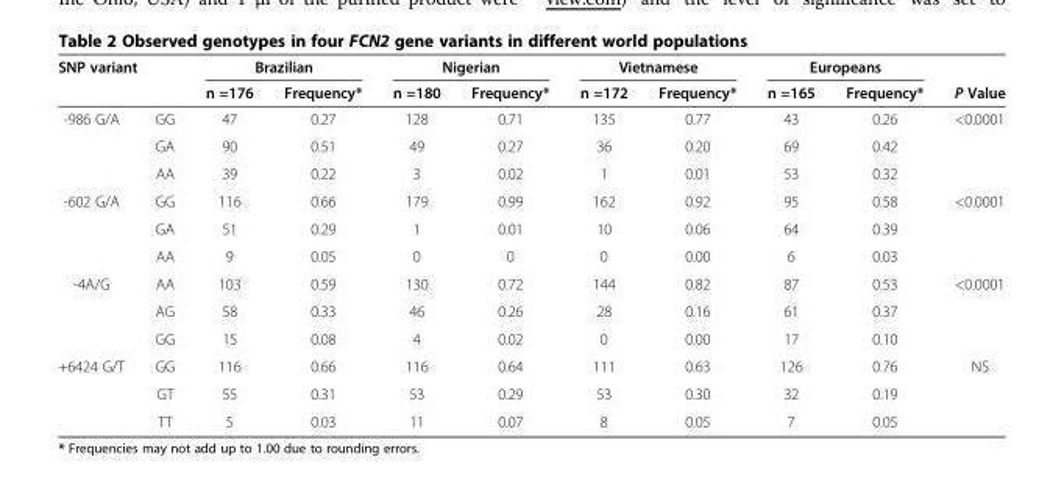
<table><thead><tr><td colspan="2">SNP variant</td><td colspan="2">Brazilian</td><td colspan="2">Nigerian</td><td colspan="2">Vietnamese</td><td colspan="2">Europeans</td><td rowspan="2">P Value</td></tr><tr><td></td><td></td><td>n =176</td><td>Frequency*</td><td>n =180</td><td>Frequency*</td><td>n =172</td><td>Frequency*</td><td>n =165</td><td>Frequency*</td></tr></thead><tbody><tr><td rowspan="3">-986 G/A</td><td>GG</td><td>47</td><td>0.27</td><td>128</td><td>0.71</td><td>135</td><td>0.77</td><td>43</td><td>0.26</td><td rowspan="3">&lt;0.0001</td></tr><tr><td>GA</td><td>90</td><td>0.51</td><td>49</td><td>0.27</td><td>36</td><td>0.20</td><td>69</td><td>0.42</td></tr><tr><td>AA</td><td>39</td><td>0.22</td><td>3</td><td>0.02</td><td>1</td><td>0.01</td><td>53</td><td>0.32</td></tr><tr><td rowspan="3">-602 G/A</td><td>GG</td><td>116</td><td>0.66</td><td>179</td><td>0.99</td><td>162</td><td>0.92</td><td>95</td><td>0.58</td><td rowspan="3">&lt;0.0001</td></tr><tr><td>GA</td><td>51</td><td>0.29</td><td>1</td><td>0.01</td><td>10</td><td>0.06</td><td>64</td><td>0.39</td></tr><tr><td>AA</td><td>9</td><td>0.05</td><td>0</td><td>0</td><td>0</td><td>0.00</td><td>6</td><td>0.03</td></tr><tr><td rowspan="3">-4A/G</td><td>AA</td><td>103</td><td>0.59</td><td>130</td><td>0.72</td><td>144</td><td>0.82</td><td>87</td><td>0.53</td><td rowspan="3">&lt;0.0001</td></tr><tr><td>AG</td><td>58</td><td>0.33</td><td>46</td><td>0.26</td><td>28</td><td>0.16</td><td>61</td><td>0.37</td></tr><tr><td>GG</td><td>15</td><td>0.08</td><td>4</td><td>0.02</td><td>0</td><td>0.00</td><td>17</td><td>0.10</td></tr><tr><td rowspan="3">+6424 G/T</td><td>GG</td><td>116</td><td>0.66</td><td>116</td><td>0.64</td><td>111</td><td>0.63</td><td>126</td><td>0.76</td><td rowspan="3">NS</td></tr><tr><td>GT</td><td>55</td><td>0.31</td><td>53</td><td>0.29</td><td>53</td><td>0.30</td><td>32</td><td>0.19</td></tr><tr><td>TT</td><td>5</td><td>0.03</td><td>11</td><td>0.07</td><td>8</td><td>0.05</td><td>7</td><td>0.05</td></tr></tbody></table>